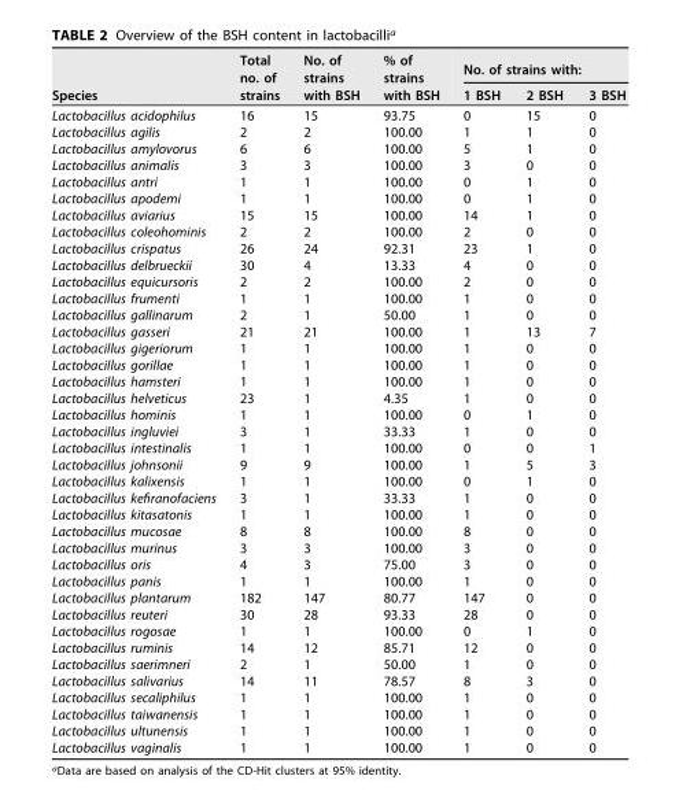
<table><thead><tr><td rowspan="2">Species</td><td rowspan="2">Total no. of strains</td><td rowspan="2">No. of strains with BSH</td><td rowspan="2">% of strains with BSH</td><td colspan="3">No. of strains with:</td></tr><tr><td>1 BSH</td><td>2 BSH</td><td>3 BSH</td></tr></thead><tbody><tr><td>Lactobacillus acidophilus</td><td>16</td><td>15</td><td>93.75</td><td>0</td><td>15</td><td>0</td></tr><tr><td>Lactobacillus agilis</td><td>2</td><td>2</td><td>100.00</td><td>1</td><td>1</td><td>0</td></tr><tr><td>Lactobacillus amylovorus</td><td>6</td><td>6</td><td>100.00</td><td>5</td><td>1</td><td>0</td></tr><tr><td>Lactobacillus animalis</td><td>3</td><td>3</td><td>100.00</td><td>3</td><td>0</td><td>0</td></tr><tr><td>Lactobacillus antri</td><td>1</td><td>1</td><td>100.00</td><td>0</td><td>1</td><td>0</td></tr><tr><td>Lactobacillus apodemi</td><td>1</td><td>1</td><td>100.00</td><td>0</td><td>1</td><td>0</td></tr><tr><td>Lactobacillus aviarius</td><td>15</td><td>15</td><td>100.00</td><td>14</td><td>1</td><td>0</td></tr><tr><td>Lactobacillus coleohominis</td><td>2</td><td>2</td><td>100.00</td><td>2</td><td>0</td><td>0</td></tr><tr><td>Lactobacillus crispatus</td><td>26</td><td>24</td><td>92.31</td><td>23</td><td>1</td><td>0</td></tr><tr><td>Lactobacillus delbrueckii</td><td>30</td><td>4</td><td>13.33</td><td>4</td><td>0</td><td>0</td></tr><tr><td>Lactobacillus equicursoris</td><td>2</td><td>2</td><td>100.00</td><td>2</td><td>0</td><td>0</td></tr><tr><td>Lactobacillus frumenti</td><td>1</td><td>1</td><td>100.00</td><td>1</td><td>0</td><td>0</td></tr><tr><td>Lactobacillus gallinarum</td><td>2</td><td>1</td><td>50.00</td><td>1</td><td>0</td><td>0</td></tr><tr><td>Lactobacillus gasseri</td><td>21</td><td>21</td><td>100.00</td><td>1</td><td>13</td><td>7</td></tr><tr><td>Lactobacillus gigeriorum</td><td>1</td><td>1</td><td>100.00</td><td>1</td><td>0</td><td>0</td></tr><tr><td>Lactobacillus gorillae</td><td>1</td><td>1</td><td>100.00</td><td>1</td><td>0</td><td>0</td></tr><tr><td>Lactobacillus hamsteri</td><td>1</td><td>1</td><td>100.00</td><td>1</td><td>0</td><td>0</td></tr><tr><td>Lactobacillus helveticus</td><td>23</td><td>1</td><td>4.35</td><td>1</td><td>0</td><td>0</td></tr><tr><td>Lactobacillus hominis</td><td>1</td><td>1</td><td>100.00</td><td>0</td><td>1</td><td>0</td></tr><tr><td>Lactobacillus ingluviei</td><td>3</td><td>1</td><td>33.33</td><td>1</td><td>0</td><td>0</td></tr><tr><td>Lactobacillus intestinalis</td><td>1</td><td>1</td><td>100.00</td><td>0</td><td>0</td><td>1</td></tr><tr><td>Lactobacillus johnsonii</td><td>9</td><td>9</td><td>100.00</td><td>1</td><td>5</td><td>3</td></tr><tr><td>Lactobacillus kalixensis</td><td>1</td><td>1</td><td>100.00</td><td>0</td><td>1</td><td>0</td></tr><tr><td>Lactobacillus kefiranofaciens</td><td>3</td><td>1</td><td>33.33</td><td>1</td><td>0</td><td>0</td></tr><tr><td>Lactobacillus kitasatonis</td><td>1</td><td>1</td><td>100.00</td><td>1</td><td>0</td><td>0</td></tr><tr><td>Lactobacillus mucosae</td><td>8</td><td>8</td><td>100.00</td><td>8</td><td>0</td><td>0</td></tr><tr><td>Lactobacillus murinus</td><td>3</td><td>3</td><td>100.00</td><td>3</td><td>0</td><td>0</td></tr><tr><td>Lactobacillus oris</td><td>4</td><td>3</td><td>75.00</td><td>3</td><td>0</td><td>0</td></tr><tr><td>Lactobacillus panis</td><td>1</td><td>1</td><td>100.00</td><td>1</td><td>0</td><td>0</td></tr><tr><td>Lactobacillus plantarum</td><td>182</td><td>147</td><td>80.77</td><td>147</td><td>0</td><td>0</td></tr><tr><td>Lactobacillus reuteri</td><td>30</td><td>28</td><td>93.33</td><td>28</td><td>0</td><td>0</td></tr><tr><td>Lactobacillus rogosae</td><td>1</td><td>1</td><td>100.00</td><td>0</td><td>1</td><td>0</td></tr><tr><td>Lactobacillus ruminis</td><td>14</td><td>12</td><td>85.71</td><td>12</td><td>0</td><td>0</td></tr><tr><td>Lactobacillus saerimneri</td><td>2</td><td>1</td><td>50.00</td><td>1</td><td>0</td><td>0</td></tr><tr><td>Lactobacillus salivarius</td><td>14</td><td>11</td><td>78.57</td><td>8</td><td>3</td><td>0</td></tr><tr><td>Lactobacillus secaliphilus</td><td>1</td><td>1</td><td>100.00</td><td>1</td><td>0</td><td>0</td></tr><tr><td>Lactobacillus taiwanensis</td><td>1</td><td>1</td><td>100.00</td><td>1</td><td>0</td><td>0</td></tr><tr><td>Lactobacillus ultunensis</td><td>1</td><td>1</td><td>100.00</td><td>1</td><td>0</td><td>0</td></tr><tr><td>Lactobacillus vaginalis</td><td>1</td><td>1</td><td>100.00</td><td>1</td><td>0</td><td>0</td></tr></tbody></table>